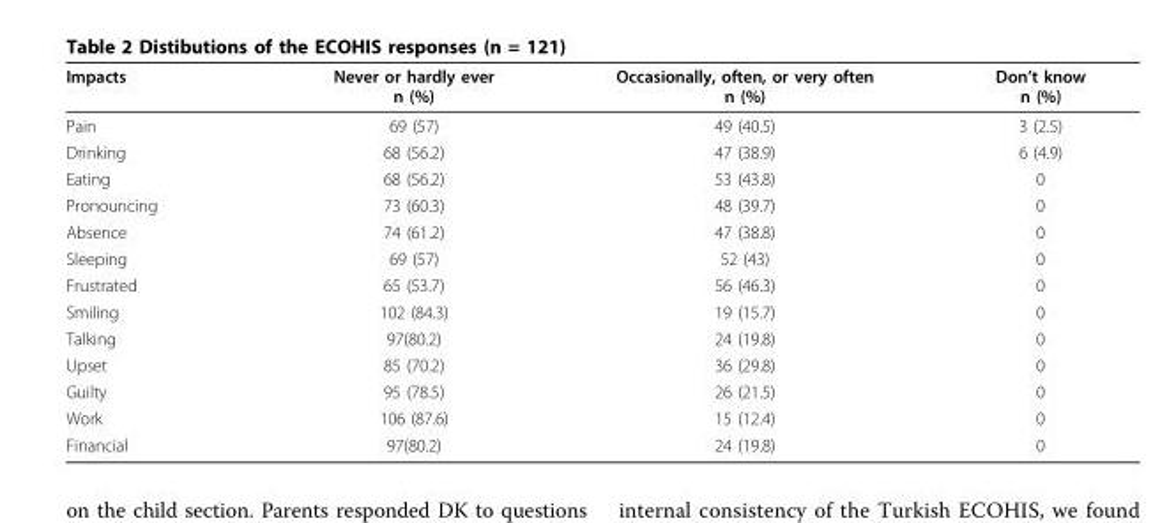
<table><thead><tr><td>Impacts</td><td>Never or hardly ever n (%)</td><td>Occasionally, often, or very often n (%)</td><td>Don’t know n (%)</td></tr></thead><tbody><tr><td>Pain</td><td>69 (57)</td><td>49 (40.5)</td><td>3 (2.5)</td></tr><tr><td>Drinking</td><td>68 (56.2)</td><td>47 (38.9)</td><td>6 (4.9)</td></tr><tr><td>Eating</td><td>68 (56.2)</td><td>53 (43.8)</td><td>0</td></tr><tr><td>Pronouncing</td><td>73 (60.3)</td><td>48 (39.7)</td><td>0</td></tr><tr><td>Absence</td><td>74 (61.2)</td><td>47 (38.8)</td><td>0</td></tr><tr><td>Sleeping</td><td>69 (57)</td><td>52 (43)</td><td>0</td></tr><tr><td>Frustrated</td><td>65 (53.7)</td><td>56 (46.3)</td><td>0</td></tr><tr><td>Smiling</td><td>102 (84.3)</td><td>19 (15.7)</td><td>0</td></tr><tr><td>Talking</td><td>97(80.2)</td><td>24 (19.8)</td><td>0</td></tr><tr><td>Upset</td><td>85 (70.2)</td><td>36 (29.8)</td><td>0</td></tr><tr><td>Guilty</td><td>95 (78.5)</td><td>26 (21.5)</td><td>0</td></tr><tr><td>Work</td><td>106 (87.6)</td><td>15 (12.4)</td><td>0</td></tr><tr><td>Financial</td><td>97(80.2)</td><td>24 (19.8)</td><td>0</td></tr></tbody></table>